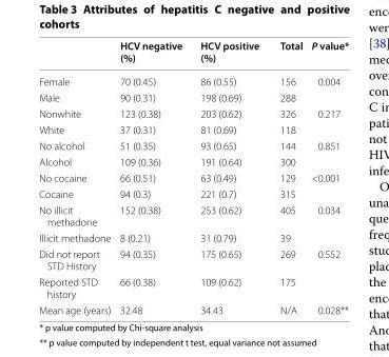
<table><thead><tr><td></td><td>HCV negative (%)</td><td>HCV positive (%)</td><td>Total</td><td>P value*</td></tr></thead><tbody><tr><td>Female</td><td>70 (0.45)</td><td>86 (0.55)</td><td>156</td><td>0.004</td></tr><tr><td>Male</td><td>90 (0.31)</td><td>198 (0.69)</td><td>288</td><td></td></tr><tr><td>Nonwhite</td><td>123 (0.38)</td><td>203 (0.62)</td><td>326</td><td>0.217</td></tr><tr><td>White</td><td>37 (0.31)</td><td>81 (0.69)</td><td>118</td><td></td></tr><tr><td>No alcohol</td><td>51 (0.35)</td><td>93 (0.65)</td><td>144</td><td>0.851</td></tr><tr><td>Alcohol</td><td>109 (0.36)</td><td>191 (0.64)</td><td>300</td><td></td></tr><tr><td>No cocaine</td><td>66 (0.51)</td><td>63 (0.49)</td><td>129</td><td>&lt;0.001</td></tr><tr><td>Cocaine</td><td>94 (0.3)</td><td>221 (0.7)</td><td>315</td><td></td></tr><tr><td>No illicit methadone</td><td>152 (0.38)</td><td>253 (0.62)</td><td>405</td><td>0.034</td></tr><tr><td>Illicit methadone</td><td>8 (0.21)</td><td>31 (0.79)</td><td>39</td><td></td></tr><tr><td>Did not report STD History</td><td>94 (0.35)</td><td>175 (0.65)</td><td>269</td><td>0.552</td></tr><tr><td>Reported STD history</td><td>66 (0.38)</td><td>109 (0.62)</td><td>175</td><td></td></tr><tr><td>Mean age (years)</td><td>32.48</td><td>34.43</td><td>N/A</td><td>0.028**</td></tr></tbody></table>